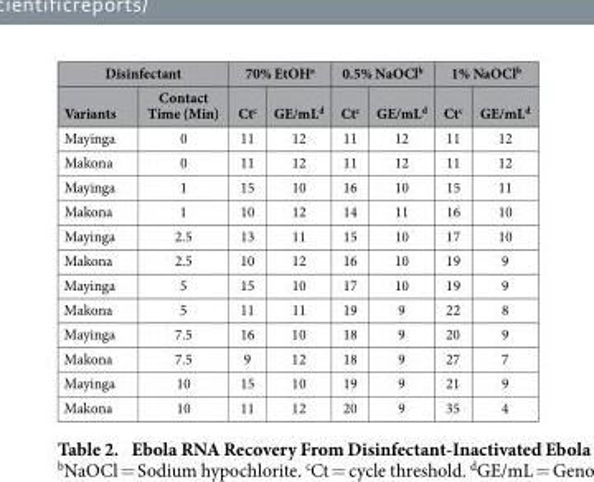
<table><thead><tr><td colspan="2">Disinfectant</td><td colspan="2">70% EtOH<sup>a</sup></td><td colspan="2">0.5% NaOCl<sup>b</sup></td><td colspan="2">1% NaOCl<sup>b</sup></td></tr><tr><td>Variants</td><td>Contact Time (Min)</td><td>Ct<sup>c</sup></td><td>GE/mL<sup>d</sup></td><td>Ct<sup>c</sup></td><td>GE/mL<sup>d</sup></td><td>Ct<sup>c</sup></td><td>GE/mL<sup>d</sup></td></tr></thead><tbody><tr><td>Mayinga</td><td>0</td><td>11</td><td>12</td><td>11</td><td>12</td><td>11</td><td>12</td></tr><tr><td>Makona</td><td>0</td><td>11</td><td>12</td><td>11</td><td>12</td><td>11</td><td>12</td></tr><tr><td>Mayinga</td><td>1</td><td>15</td><td>10</td><td>16</td><td>10</td><td>15</td><td>11</td></tr><tr><td>Makona</td><td>1</td><td>10</td><td>12</td><td>14</td><td>11</td><td>16</td><td>10</td></tr><tr><td>Mayinga</td><td>2.5</td><td>13</td><td>11</td><td>15</td><td>10</td><td>17</td><td>10</td></tr><tr><td>Makona</td><td>2.5</td><td>10</td><td>12</td><td>16</td><td>10</td><td>19</td><td>9</td></tr><tr><td>Mayinga</td><td>5</td><td>15</td><td>10</td><td>17</td><td>10</td><td>19</td><td>9</td></tr><tr><td>Makona</td><td>5</td><td>11</td><td>11</td><td>19</td><td>9</td><td>22</td><td>8</td></tr><tr><td>Mayinga</td><td>7.5</td><td>16</td><td>10</td><td>18</td><td>9</td><td>20</td><td>9</td></tr><tr><td>Makona</td><td>7.5</td><td>9</td><td>12</td><td>18</td><td>9</td><td>27</td><td>7</td></tr><tr><td>Mayinga</td><td>10</td><td>15</td><td>10</td><td>19</td><td>9</td><td>21</td><td>9</td></tr><tr><td>Makona</td><td>10</td><td>11</td><td>12</td><td>20</td><td>9</td><td>35</td><td>4</td></tr></tbody></table>